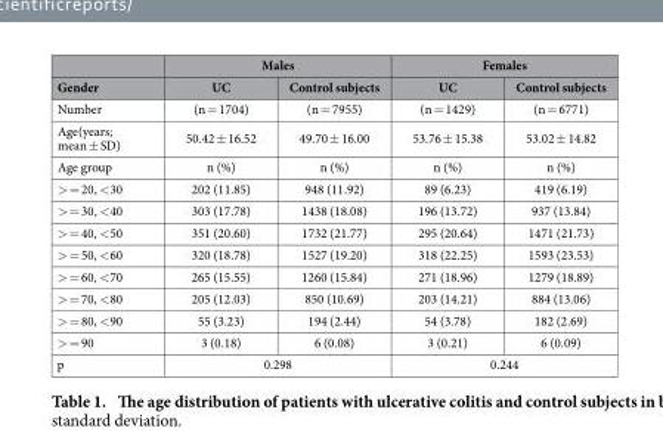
<table><thead><tr><td rowspan="2">Gender</td><td colspan="2">Males</td><td colspan="2">Females</td></tr><tr><td>UC</td><td>Control subjects</td><td>UC</td><td>Control subjects</td></tr></thead><tbody><tr><td>Number</td><td>(n = 1704)</td><td>(n = 7955)</td><td>(n = 1429)</td><td>(n = 6771)</td></tr><tr><td>Age(years; mean ± SD)</td><td>50.42 ± 16.52</td><td>49.70 ± 16.00</td><td>53.76 ± 15.38</td><td>53.02 ± 14.82</td></tr><tr><td>Age group</td><td>n (%)</td><td>n (%)</td><td>n (%)</td><td>n (%)</td></tr><tr><td>&gt; = 20, &lt; 30</td><td>202 (11.85)</td><td>948 (11.92)</td><td>89 (6.23)</td><td>419 (6.19)</td></tr><tr><td>&gt; = 30, &lt; 40</td><td>303 (17.78)</td><td>1438 (18.08)</td><td>196 (13.72)</td><td>937 (13.84)</td></tr><tr><td>&gt; = 40, &lt; 50</td><td>351 (20.60)</td><td>1732 (21.77)</td><td>295 (20.64)</td><td>1471 (21.73)</td></tr><tr><td>&gt; = 50, &lt; 60</td><td>320 (18.78)</td><td>1527 (19.20)</td><td>318 (22.25)</td><td>1593 (23.53)</td></tr><tr><td>&gt; = 60, &lt; 70</td><td>265 (15.55)</td><td>1260 (15.84)</td><td>271 (18.96)</td><td>1279 (18.89)</td></tr><tr><td>&gt; = 70, &lt; 80</td><td>205 (12.03)</td><td>850 (10.69)</td><td>203 (14.21)</td><td>884 (13.06)</td></tr><tr><td>&gt; = 80, &lt; 90</td><td>55 (3.23)</td><td>194 (2.44)</td><td>54 (3.78)</td><td>182 (2.69)</td></tr><tr><td>&gt; = 90</td><td>3 (0.18)</td><td>6 (0.08)</td><td>3 (0.21)</td><td>6 (0.09)</td></tr><tr><td>p</td><td colspan="2">0.298</td><td colspan="2">0.244</td></tr></tbody></table>